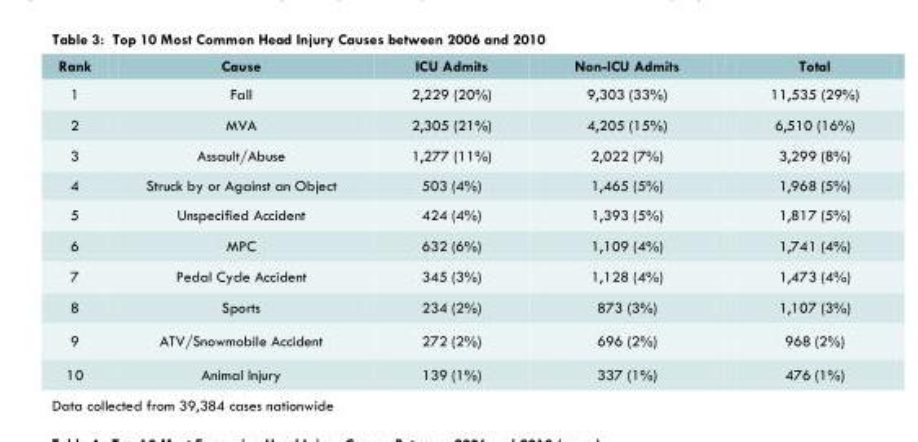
<table><thead><tr><td>Rank</td><td>Cause</td><td>ICU Admits</td><td>Non-ICU Admits</td><td>Total</td></tr></thead><tbody><tr><td>1</td><td>Fall</td><td>2,229 (20%)</td><td>9,303 (33%)</td><td>11,535 (29%)</td></tr><tr><td>2</td><td>MVA</td><td>2,305 (21%)</td><td>4,205 (15%)</td><td>6,510 (16%)</td></tr><tr><td>3</td><td>Assault/Abuse</td><td>1,277 (11%)</td><td>2,022 (7%)</td><td>3,299 (8%)</td></tr><tr><td>4</td><td>Struck by or Against an Object</td><td>503 (4%)</td><td>1,465 (5%)</td><td>1,968 (5%)</td></tr><tr><td>5</td><td>Unspecified Accident</td><td>424 (4%)</td><td>1,393 (5%)</td><td>1,817 (5%)</td></tr><tr><td>6</td><td>MPC</td><td>632 (6%)</td><td>1,109 (4%)</td><td>1,741 (4%)</td></tr><tr><td>7</td><td>Pedal Cycle Accident</td><td>345 (3%)</td><td>1,128 (4%)</td><td>1,473 (4%)</td></tr><tr><td>8</td><td>Sports</td><td>234 (2%)</td><td>873 (3%)</td><td>1,107 (3%)</td></tr><tr><td>9</td><td>ATV/Snowmobile Accident</td><td>272 (2%)</td><td>696 (2%)</td><td>968 (2%)</td></tr><tr><td>10</td><td>Animal Injury</td><td>139 (1%)</td><td>337 (1%)</td><td>476 (1%)</td></tr></tbody></table>